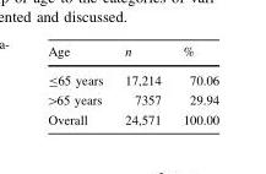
<table><thead><tr><td>Age</td><td>n</td><td>%</td></tr></thead><tbody><tr><td>≤65 years</td><td>17,214</td><td>70.06</td></tr><tr><td>&gt;65 years</td><td>7357</td><td>29.94</td></tr><tr><td>Overall</td><td>24,571</td><td>100.00</td></tr></tbody></table>